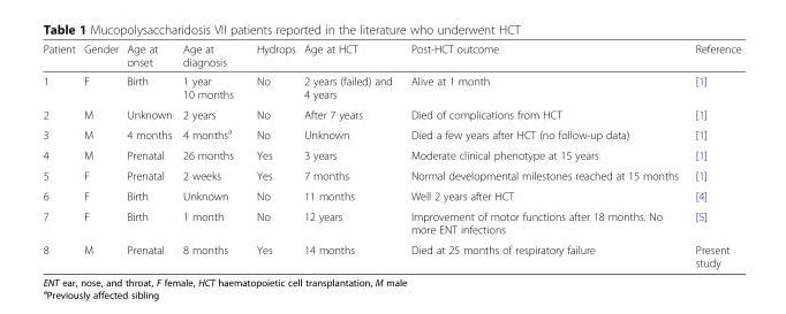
<table><thead><tr><td>Patient</td><td>Gender</td><td>Age at onset</td><td>Age at diagnosis</td><td>Hydrops</td><td>Age at HCT</td><td>Post-HCT outcome</td><td>Reference</td></tr></thead><tbody><tr><td>1</td><td>F</td><td>Birth</td><td>1 year 10 months</td><td>No</td><td>2 years (failed) and 4 years</td><td>Alive at 1 month</td><td>[1]</td></tr><tr><td>2</td><td>M</td><td>Unknown</td><td>2 years</td><td>No</td><td>After 7 years</td><td>Died of complications from HCT</td><td>[1]</td></tr><tr><td>3</td><td>M</td><td>4 months</td><td>4 months<sup>a</sup></td><td>No</td><td>Unknown</td><td>Died a few years after HCT (no follow-up data)</td><td>[1]</td></tr><tr><td>4</td><td>M</td><td>Prenatal</td><td>26 months</td><td>Yes</td><td>3 years</td><td>Moderate clinical phenotype at 15 years</td><td>[1]</td></tr><tr><td>5</td><td>F</td><td>Prenatal</td><td>2 weeks</td><td>Yes</td><td>7 months</td><td>Normal developmental milestones reached at 15 months</td><td>[1]</td></tr><tr><td>6</td><td>F</td><td>Birth</td><td>Unknown</td><td>No</td><td>11 months</td><td>Well 2 years after HCT</td><td>[4]</td></tr><tr><td>7</td><td>F</td><td>Birth</td><td>1 month</td><td>No</td><td>12 years</td><td>Improvement of motor functions after 18 months. No more ENT infections</td><td>[5]</td></tr><tr><td>8</td><td>M</td><td>Prenatal</td><td>8 months</td><td>Yes</td><td>14 months</td><td>Died at 25 months of respiratory failure</td><td>Present study</td></tr></tbody></table>